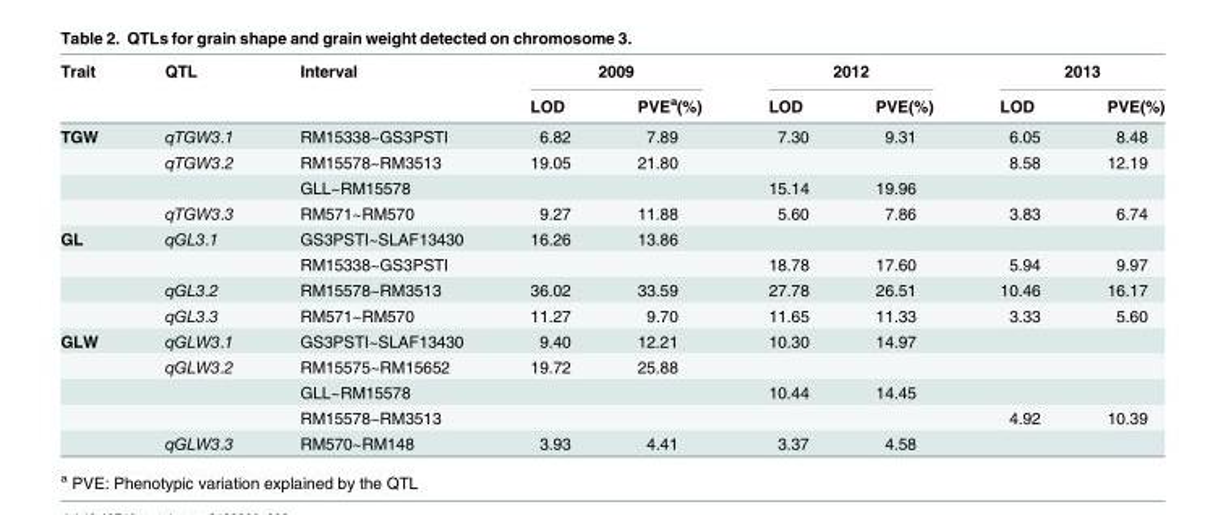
<table><thead><tr><td rowspan="2">Trait</td><td rowspan="2">QTL</td><td rowspan="2">Interval</td><td colspan="2">2009</td><td colspan="2">2012</td><td colspan="2">2013</td></tr><tr><td>LOD</td><td>PVE<sup>a</sup>(%)</td><td>LOD</td><td>PVE(%)</td><td>LOD</td><td>PVE(%)</td></tr></thead><tbody><tr><td rowspan="4">TGW</td><td>qTGW3.1</td><td>RM15338~GS3PSTI</td><td>6.82</td><td>7.89</td><td>7.30</td><td>9.31</td><td>6.05</td><td>8.48</td></tr><tr><td>qTGW3.2</td><td>RM15578~RM3513</td><td>19.05</td><td>21.80</td><td></td><td></td><td>8.58</td><td>12.19</td></tr><tr><td></td><td>GLL~RM15578</td><td></td><td></td><td>15.14</td><td>19.96</td><td></td><td></td></tr><tr><td>qTGW3.3</td><td>RM571~RM570</td><td>9.27</td><td>11.88</td><td>5.60</td><td>7.86</td><td>3.83</td><td>6.74</td></tr><tr><td rowspan="4">GL</td><td>qGL3.1</td><td>GS3PSTI~SLAF13430</td><td>16.26</td><td>13.86</td><td></td><td></td><td></td><td></td></tr><tr><td></td><td>RM15338~GS3PSTI</td><td></td><td></td><td>18.78</td><td>17.60</td><td>5.94</td><td>9.97</td></tr><tr><td>qGL3.2</td><td>RM15578~RM3513</td><td>36.02</td><td>33.59</td><td>27.78</td><td>26.51</td><td>10.46</td><td>16.17</td></tr><tr><td>qGL3.3</td><td>RM571~RM570</td><td>11.27</td><td>9.70</td><td>11.65</td><td>11.33</td><td>3.33</td><td>5.60</td></tr><tr><td rowspan="5">GLW</td><td>qGLW3.1</td><td>GS3PSTI~SLAF13430</td><td>9.40</td><td>12.21</td><td>10.30</td><td>14.97</td><td></td><td></td></tr><tr><td>qGLW3.2</td><td>RM15575~RM15652</td><td>19.72</td><td>25.88</td><td></td><td></td><td></td><td></td></tr><tr><td></td><td>GLL~RM15578</td><td></td><td></td><td>10.44</td><td>14.45</td><td></td><td></td></tr><tr><td></td><td>RM15578~RM3513</td><td></td><td></td><td></td><td></td><td>4.92</td><td>10.39</td></tr><tr><td>qGLW3.3</td><td>RM570~RM148</td><td>3.93</td><td>4.41</td><td>3.37</td><td>4.58</td><td></td><td></td></tr></tbody></table>